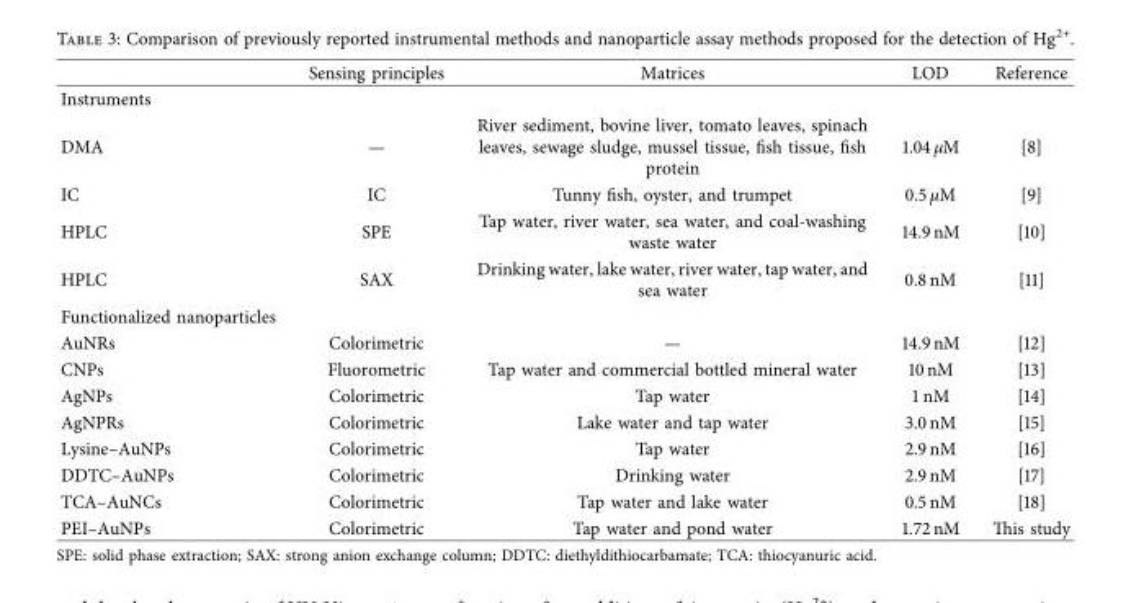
<table><thead><tr><td></td><td>Sensing principles</td><td>Matrices</td><td>LOD</td><td>Reference</td></tr></thead><tbody><tr><td colspan="5">Instruments</td></tr><tr><td>DMA</td><td>—</td><td>River sediment, bovine liver, tomato leaves, spinach leaves, sewage sludge, mussel tissue, fsh tissue, fsh protein</td><td>1.04 μM</td><td>[8]</td></tr><tr><td>IC</td><td>IC</td><td>Tunny fsh, oyster, and trumpet</td><td>0.5 μM</td><td>[9]</td></tr><tr><td>HPLC</td><td>SPE</td><td>Tap water, river water, sea water, and coal-washing waste water</td><td>14.9 nM</td><td>[10]</td></tr><tr><td>HPLC</td><td>SAX</td><td>Drinking water, lake water, river water, tap water, and sea water</td><td>0.8 nM</td><td>[11]</td></tr><tr><td colspan="5">Functionalized nanoparticles</td></tr><tr><td>AuNRs</td><td>Colorimetric</td><td>—</td><td>14.9 nM</td><td>[12]</td></tr><tr><td>CNPs</td><td>Fluorometric</td><td>Tap water and commercial bottled mineral water</td><td>10 nM</td><td>[13]</td></tr><tr><td>AgNPs</td><td>Colorimetric</td><td>Tap water</td><td>1 nM</td><td>[14]</td></tr><tr><td>AgNPRs</td><td>Colorimetric</td><td>Lake water and tap water</td><td>3.0 nM</td><td>[15]</td></tr><tr><td>Lysine–AuNPs</td><td>Colorimetric</td><td>Tap water</td><td>2.9 nM</td><td>[16]</td></tr><tr><td>DDTC–AuNPs</td><td>Colorimetric</td><td>Drinking water</td><td>2.9 nM</td><td>[17]</td></tr><tr><td>TCA–AuNCs</td><td>Colorimetric</td><td>Tap water and lake water</td><td>0.5 nM</td><td>[18]</td></tr><tr><td>PEI–AuNPs</td><td>Colorimetric</td><td>Tap water and pond water</td><td>1.72 nM</td><td>Tis study</td></tr></tbody></table>